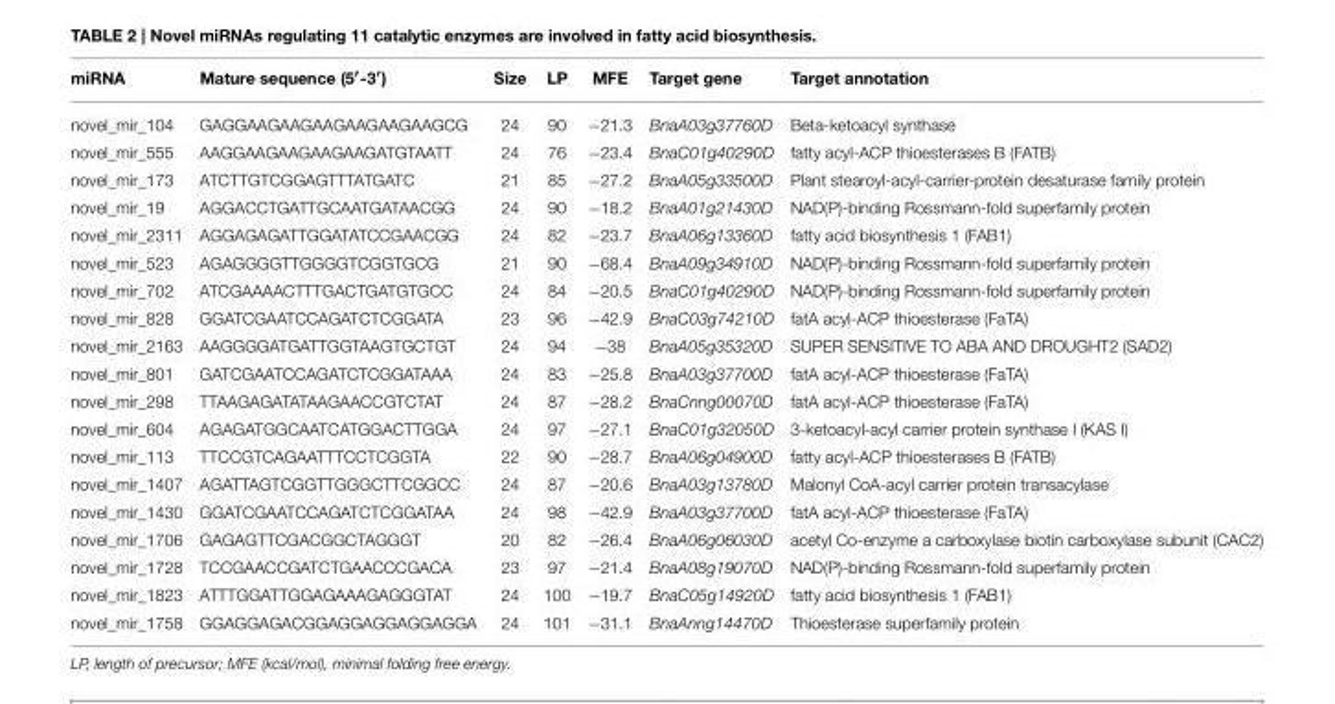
<table><thead><tr><td>miRNA</td><td>Mature sequence (5′-3′)</td><td>Size</td><td>LP</td><td>MFE</td><td>Target gene</td><td>Target annotation</td></tr></thead><tbody><tr><td>novel_mir_104</td><td>GAGGAAGAAGAAGAAGAAGAAGCG</td><td>24</td><td>90</td><td>−21.3</td><td>BnaA03g37760D</td><td>Beta-ketoacyl synthase</td></tr><tr><td>novel_mir_555</td><td>AAGGAAGAAGAAGAAGATGTAATT</td><td>24</td><td>76</td><td>−23.4</td><td>BnaC01g40290D</td><td>fatty acyl-ACP thioesterases B (FATB)</td></tr><tr><td>novel_mir_173</td><td>ATCTTGTCGGAGTTTATGATC</td><td>21</td><td>85</td><td>−27.2</td><td>BnaA05g33500D</td><td>Plant stearoyl-acyl-carrier-protein desaturase family protein</td></tr><tr><td>novel_mir_19</td><td>AGGACCTGATTGCAATGATAACGG</td><td>24</td><td>90</td><td>−18.2</td><td>BnaA01g21430D</td><td>NAD(P)-binding Rossmann-fold superfamily protein</td></tr><tr><td>novel_mir_2311</td><td>AGGAGAGATTGGATATCCGAACGG</td><td>24</td><td>82</td><td>−23.7</td><td>BnaA06g13360D</td><td>fatty acid biosynthesis 1 (FAB1)</td></tr><tr><td>novel_mir_523</td><td>AGAGGGGTTGGGGTCGGTGCG</td><td>21</td><td>90</td><td>−68.4</td><td>BnaA09g34910D</td><td>NAD(P)-binding Rossmann-fold superfamily protein</td></tr><tr><td>novel_mir_702</td><td>ATCGAAAACTTTGACTGATGTGCC</td><td>24</td><td>84</td><td>−20.5</td><td>BnaC01g40290D</td><td>NAD(P)-binding Rossmann-fold superfamily protein</td></tr><tr><td>novel_mir_828</td><td>GGATCGAATCCAGATCTCGGATA</td><td>23</td><td>96</td><td>−42.9</td><td>BnaC03g74210D</td><td>fatA acyl-ACP thioesterase (FaTA)</td></tr><tr><td>novel_mir_2163</td><td>AAGGGGATGATTGGTAAGTGCTGT</td><td>24</td><td>94</td><td>−38</td><td>BnaA05g35320D</td><td>SUPER SENSITIVE TO ABA AND DROUGHT2 (SAD2)</td></tr><tr><td>novel_mir_801</td><td>GATCGAATCCAGATCTCGGATAAA</td><td>24</td><td>83</td><td>−25.8</td><td>BnaA03g37700D</td><td>fatA acyl-ACP thioesterase (FaTA)</td></tr><tr><td>novel_mir_298</td><td>TTAAGAGATATAAGAACCGTCTAT</td><td>24</td><td>87</td><td>−28.2</td><td>BnaCnng00070D</td><td>fatA acyl-ACP thioesterase (FaTA)</td></tr><tr><td>novel_mir_604</td><td>AGAGATGGCAATCATGGACTTGGA</td><td>24</td><td>97</td><td>−27.1</td><td>BnaC01g32050D</td><td>3-ketoacyl-acyl carrier protein synthase I (KAS I)</td></tr><tr><td>novel_mir_113</td><td>TTCCGTCAGAATTTCCTCGGTA</td><td>22</td><td>90</td><td>−28.7</td><td>BnaA06g04900D</td><td>fatty acyl-ACP thioesterases B (FATB)</td></tr><tr><td>novel_mir_1407</td><td>AGATTAGTCGGTTGGGCTTCGGCC</td><td>24</td><td>87</td><td>−20.6</td><td>BnaA03g13780D</td><td>Malonyl CoA-acyl carrier protein transacylase</td></tr><tr><td>novel_mir_1430</td><td>GGATCGAATCCAGATCTCGGATAA</td><td>24</td><td>98</td><td>−42.9</td><td>BnaA03g37700D</td><td>fatA acyl-ACP thioesterase (FaTA)</td></tr><tr><td>novel_mir_1706</td><td>GAGAGTTCGACGGCTAGGGT</td><td>20</td><td>82</td><td>−26.4</td><td>BnaA06g06030D</td><td>acetyl Co-enzyme a carboxylase biotin carboxylase subunit (CAC2)</td></tr><tr><td>novel_mir_1728</td><td>TCCGAACCGATCTGAACCCGACA</td><td>23</td><td>97</td><td>−21.4</td><td>BnaA08g19070D</td><td>NAD(P)-binding Rossmann-fold superfamily protein</td></tr><tr><td>novel_mir_1823</td><td>ATTTGGATTGGAGAAAGAGGGTAT</td><td>24</td><td>100</td><td>−19.7</td><td>BnaC05g14920D</td><td>fatty acid biosynthesis 1 (FAB1)</td></tr><tr><td>novel_mir_1758</td><td>GGAGGAGACGGAGGAGGAGGAGGA</td><td>24</td><td>101</td><td>−31.1</td><td>BnaAnng14470D</td><td>Thioesterase superfamily protein</td></tr></tbody></table>